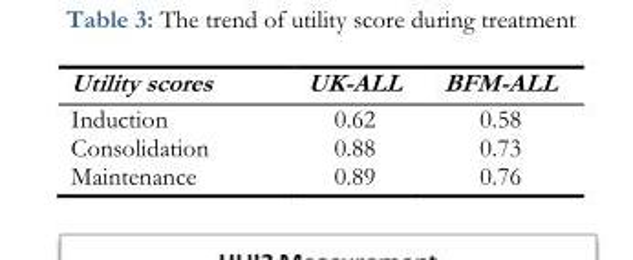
<table><thead><tr><td>Utility scores</td><td>UK-ALL</td><td>BFM-ALL</td></tr></thead><tbody><tr><td>Induction</td><td>0.62</td><td>0.58</td></tr><tr><td>Consolidation</td><td>0.88</td><td>0.73</td></tr><tr><td>Maintenance</td><td>0.89</td><td>0.76</td></tr></tbody></table>